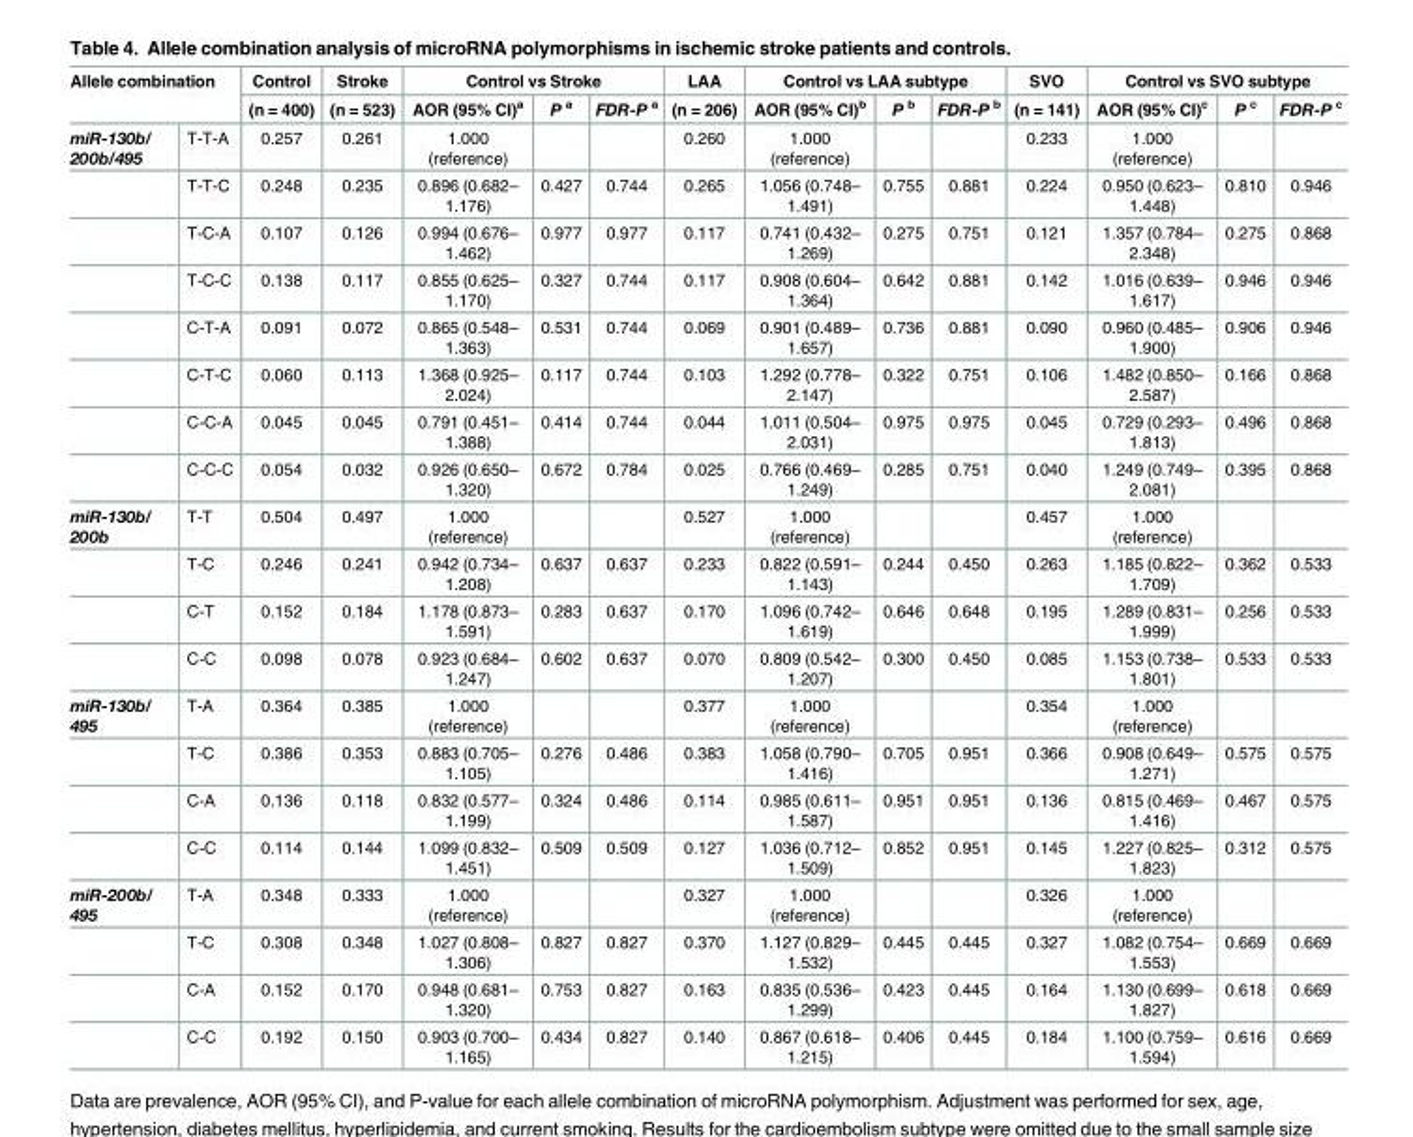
<table><thead><tr><td rowspan="2" colspan="2">Allele combination</td><td rowspan="3">Control (n = 400) 0.257</td><td rowspan="3">Stroke (n = 523) 0.261</td><td colspan="3">Control vs Stroke</td><td rowspan="3">LAA (n = 206) 0.260</td><td colspan="3">Control vs LAA subtype</td><td rowspan="3">SVO (n = 141) 0.233</td><td colspan="3">Control vs SVO subtype</td></tr><tr><td rowspan="2">AOR (95% CI)<sup>a</sup> 1.000 (reference)</td><td rowspan="2">P <sup>a</sup></td><td rowspan="2">FDR-P <sup>a</sup></td><td rowspan="2">AOR (95% CI)<sup>b</sup> 1.000 (reference)</td><td rowspan="2">P <sup>b</sup></td><td rowspan="2">FDR-P <sup>b</sup></td><td rowspan="2">AOR (95% CI)<sup>c</sup> 1.000 (reference)</td><td rowspan="2">P <sup>c</sup></td><td rowspan="2">FDR-P <sup>c</sup></td></tr><tr><td>miR-130b/ 200b/495</td><td>T-T-A</td></tr></thead><tbody><tr><td></td><td>T-T-C</td><td>0.248</td><td>0.235</td><td>0.896 (0.682– 1.176)</td><td>0.427</td><td>0.744</td><td>0.265</td><td>1.056 (0.748– 1.491)</td><td>0.755</td><td>0.881</td><td>0.224</td><td>0.950 (0.623– 1.448)</td><td>0.810</td><td>0.946</td></tr><tr><td></td><td>T-C-A</td><td>0.107</td><td>0.126</td><td>0.994 (0.676– 1.462)</td><td>0.977</td><td>0.977</td><td>0.117</td><td>0.741 (0.432– 1.269)</td><td>0.275</td><td>0.751</td><td>0.121</td><td>1.357 (0.784– 2.348)</td><td>0.275</td><td>0.868</td></tr><tr><td></td><td>T-C-C</td><td>0.138</td><td>0.117</td><td>0.855 (0.625– 1.170)</td><td>0.327</td><td>0.744</td><td>0.117</td><td>0.908 (0.604– 1.364)</td><td>0.642</td><td>0.881</td><td>0.142</td><td>1.016 (0.639– 1.617)</td><td>0.946</td><td>0.946</td></tr><tr><td></td><td>C-T-A</td><td>0.091</td><td>0.072</td><td>0.865 (0.548– 1.363)</td><td>0.531</td><td>0.744</td><td>0.069</td><td>0.901 (0.489– 1.657)</td><td>0.736</td><td>0.881</td><td>0.090</td><td>0.960 (0.485– 1.900)</td><td>0.906</td><td>0.946</td></tr><tr><td></td><td>C-T-C</td><td>0.060</td><td>0.113</td><td>1.368 (0.925– 2.024)</td><td>0.117</td><td>0.744</td><td>0.103</td><td>1.292 (0.778– 2.147)</td><td>0.322</td><td>0.751</td><td>0.106</td><td>1.482 (0.850– 2.587)</td><td>0.166</td><td>0.868</td></tr><tr><td></td><td>C-C-A</td><td>0.045</td><td>0.045</td><td>0.791 (0.451– 1.388)</td><td>0.414</td><td>0.744</td><td>0.044</td><td>1.011 (0.504– 2.031)</td><td>0.975</td><td>0.975</td><td>0.045</td><td>0.729 (0.293– 1.813)</td><td>0.496</td><td>0.868</td></tr><tr><td></td><td>C-C-C</td><td>0.054</td><td>0.032</td><td>0.926 (0.650– 1.320)</td><td>0.672</td><td>0.784</td><td>0.025</td><td>0.766 (0.469– 1.249)</td><td>0.285</td><td>0.751</td><td>0.040</td><td>1.249 (0.749– 2.081)</td><td>0.395</td><td>0.868</td></tr><tr><td rowspan="4">miR-130b/ 200b</td><td>T-T</td><td>0.504</td><td>0.497</td><td>1.000 (reference)</td><td></td><td></td><td>0.527</td><td>1.000 (reference)</td><td></td><td></td><td>0.457</td><td>1.000 (reference)</td><td></td><td></td></tr><tr><td>T-C</td><td>0.246</td><td>0.241</td><td>0.942 (0.734– 1.208)</td><td>0.637</td><td>0.637</td><td>0.233</td><td>0.822 (0.591– 1.143)</td><td>0.244</td><td>0.450</td><td>0.263</td><td>1.185 (0.822– 1.709)</td><td>0.362</td><td>0.533</td></tr><tr><td>C-T</td><td>0.152</td><td>0.184</td><td>1.178 (0.873– 1.591)</td><td>0.283</td><td>0.637</td><td>0.170</td><td>1.096 (0.742– 1.619)</td><td>0.646</td><td>0.648</td><td>0.195</td><td>1.289 (0.831– 1.999)</td><td>0.256</td><td>0.533</td></tr><tr><td>C-C</td><td>0.098</td><td>0.078</td><td>0.923 (0.684– 1.247)</td><td>0.602</td><td>0.637</td><td>0.070</td><td>0.809 (0.542– 1.207)</td><td>0.300</td><td>0.450</td><td>0.085</td><td>1.153 (0.738– 1.801)</td><td>0.533</td><td>0.533</td></tr><tr><td rowspan="4">miR-130b/ 495</td><td>T-A</td><td>0.364</td><td>0.385</td><td>1.000 (reference)</td><td></td><td></td><td>0.377</td><td>1.000 (reference)</td><td></td><td></td><td>0.354</td><td>1.000 (reference)</td><td></td><td></td></tr><tr><td>T-C</td><td>0.386</td><td>0.353</td><td>0.883 (0.705– 1.105)</td><td>0.276</td><td>0.486</td><td>0.383</td><td>1.058 (0.790– 1.416)</td><td>0.705</td><td>0.951</td><td>0.366</td><td>0.908 (0.649– 1.271)</td><td>0.575</td><td>0.575</td></tr><tr><td>C-A</td><td>0.136</td><td>0.118</td><td>0.832 (0.577– 1.199)</td><td>0.324</td><td>0.486</td><td>0.114</td><td>0.985 (0.611– 1.587)</td><td>0.951</td><td>0.951</td><td>0.136</td><td>0.815 (0.469– 1.416)</td><td>0.467</td><td>0.575</td></tr><tr><td>C-C</td><td>0.114</td><td>0.144</td><td>1.099 (0.832– 1.451)</td><td>0.509</td><td>0.509</td><td>0.127</td><td>1.036 (0.712– 1.509)</td><td>0.852</td><td>0.951</td><td>0.145</td><td>1.227 (0.825– 1.823)</td><td>0.312</td><td>0.575</td></tr><tr><td rowspan="4">miR-200b/ 495</td><td>T-A</td><td>0.348</td><td>0.333</td><td>1.000 (reference)</td><td></td><td></td><td>0.327</td><td>1.000 (reference)</td><td></td><td></td><td>0.326</td><td>1.000 (reference)</td><td></td><td></td></tr><tr><td>T-C</td><td>0.308</td><td>0.348</td><td>1.027 (0.808– 1.306)</td><td>0.827</td><td>0.827</td><td>0.370</td><td>1.127 (0.829– 1.532)</td><td>0.445</td><td>0.445</td><td>0.327</td><td>1.082 (0.754– 1.553)</td><td>0.669</td><td>0.669</td></tr><tr><td>C-A</td><td>0.152</td><td>0.170</td><td>0.948 (0.681– 1.320)</td><td>0.753</td><td>0.827</td><td>0.163</td><td>0.835 (0.536– 1.299)</td><td>0.423</td><td>0.445</td><td>0.164</td><td>1.130 (0.699– 1.827)</td><td>0.618</td><td>0.669</td></tr><tr><td>C-C</td><td>0.192</td><td>0.150</td><td>0.903 (0.700– 1.165)</td><td>0.434</td><td>0.827</td><td>0.140</td><td>0.867 (0.618– 1.215)</td><td>0.406</td><td>0.445</td><td>0.184</td><td>1.100 (0.759– 1.594)</td><td>0.616</td><td>0.669</td></tr></tbody></table>